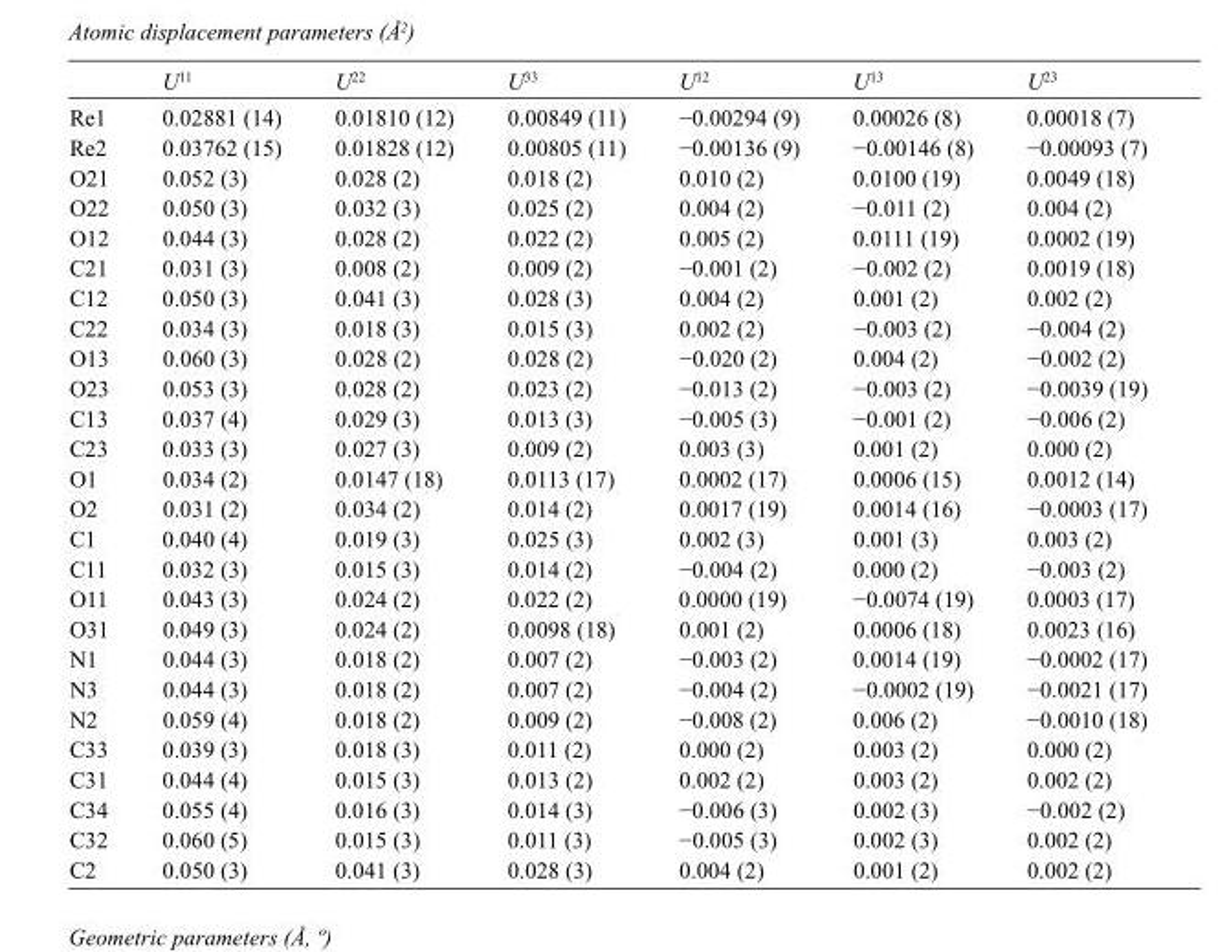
<table><thead><tr><td></td><td>U<sup>11</sup></td><td>U<sup>22</sup></td><td>U<sup>33</sup></td><td>U<sup>12</sup></td><td>U<sup>13</sup></td><td>U<sup>23</sup></td></tr></thead><tbody><tr><td>Re1</td><td>0.02881 (14)</td><td>0.01810 (12)</td><td>0.00849 (11)</td><td>−0.00294 (9)</td><td>0.00026 (8)</td><td>0.00018 (7)</td></tr><tr><td>Re2</td><td>0.03762 (15)</td><td>0.01828 (12)</td><td>0.00805 (11)</td><td>−0.00136 (9)</td><td>−0.00146 (8)</td><td>−0.00093 (7)</td></tr><tr><td>O21</td><td>0.052 (3)</td><td>0.028 (2)</td><td>0.018 (2)</td><td>0.010 (2)</td><td>0.0100 (19)</td><td>0.0049 (18)</td></tr><tr><td>O22</td><td>0.050 (3)</td><td>0.032 (3)</td><td>0.025 (2)</td><td>0.004 (2)</td><td>−0.011 (2)</td><td>0.004 (2)</td></tr><tr><td>O12</td><td>0.044 (3)</td><td>0.028 (2)</td><td>0.022 (2)</td><td>0.005 (2)</td><td>0.0111 (19)</td><td>0.0002 (19)</td></tr><tr><td>C21</td><td>0.031 (3)</td><td>0.008 (2)</td><td>0.009 (2)</td><td>−0.001 (2)</td><td>−0.002 (2)</td><td>0.0019 (18)</td></tr><tr><td>C12</td><td>0.050 (3)</td><td>0.041 (3)</td><td>0.028 (3)</td><td>0.004 (2)</td><td>0.001 (2)</td><td>0.002 (2)</td></tr><tr><td>C22</td><td>0.034 (3)</td><td>0.018 (3)</td><td>0.015 (3)</td><td>0.002 (2)</td><td>−0.003 (2)</td><td>−0.004 (2)</td></tr><tr><td>O13</td><td>0.060 (3)</td><td>0.028 (2)</td><td>0.028 (2)</td><td>−0.020 (2)</td><td>0.004 (2)</td><td>−0.002 (2)</td></tr><tr><td>O23</td><td>0.053 (3)</td><td>0.028 (2)</td><td>0.023 (2)</td><td>−0.013 (2)</td><td>−0.003 (2)</td><td>−0.0039 (19)</td></tr><tr><td>C13</td><td>0.037 (4)</td><td>0.029 (3)</td><td>0.013 (3)</td><td>−0.005 (3)</td><td>−0.001 (2)</td><td>−0.006 (2)</td></tr><tr><td>C23</td><td>0.033 (3)</td><td>0.027 (3)</td><td>0.009 (2)</td><td>0.003 (3)</td><td>0.001 (2)</td><td>0.000 (2)</td></tr><tr><td>O1</td><td>0.034 (2)</td><td>0.0147 (18)</td><td>0.0113 (17)</td><td>0.0002 (17)</td><td>0.0006 (15)</td><td>0.0012 (14)</td></tr><tr><td>O2</td><td>0.031 (2)</td><td>0.034 (2)</td><td>0.014 (2)</td><td>0.0017 (19)</td><td>0.0014 (16)</td><td>−0.0003 (17)</td></tr><tr><td>C1</td><td>0.040 (4)</td><td>0.019 (3)</td><td>0.025 (3)</td><td>0.002 (3)</td><td>0.001 (3)</td><td>0.003 (2)</td></tr><tr><td>C11</td><td>0.032 (3)</td><td>0.015 (3)</td><td>0.014 (2)</td><td>−0.004 (2)</td><td>0.000 (2)</td><td>−0.003 (2)</td></tr><tr><td>O11</td><td>0.043 (3)</td><td>0.024 (2)</td><td>0.022 (2)</td><td>0.0000 (19)</td><td>−0.0074 (19)</td><td>0.0003 (17)</td></tr><tr><td>O31</td><td>0.049 (3)</td><td>0.024 (2)</td><td>0.0098 (18)</td><td>0.001 (2)</td><td>0.0006 (18)</td><td>0.0023 (16)</td></tr><tr><td>N1</td><td>0.044 (3)</td><td>0.018 (2)</td><td>0.007 (2)</td><td>−0.003 (2)</td><td>0.0014 (19)</td><td>−0.0002 (17)</td></tr><tr><td>N3</td><td>0.044 (3)</td><td>0.018 (2)</td><td>0.007 (2)</td><td>−0.004 (2)</td><td>−0.0002 (19)</td><td>−0.0021 (17)</td></tr><tr><td>N2</td><td>0.059 (4)</td><td>0.018 (2)</td><td>0.009 (2)</td><td>−0.008 (2)</td><td>0.006 (2)</td><td>−0.0010 (18)</td></tr><tr><td>C33</td><td>0.039 (3)</td><td>0.018 (3)</td><td>0.011 (2)</td><td>0.000 (2)</td><td>0.003 (2)</td><td>0.000 (2)</td></tr><tr><td>C31</td><td>0.044 (4)</td><td>0.015 (3)</td><td>0.013 (2)</td><td>0.002 (2)</td><td>0.003 (2)</td><td>0.002 (2)</td></tr><tr><td>C34</td><td>0.055 (4)</td><td>0.016 (3)</td><td>0.014 (3)</td><td>−0.006 (3)</td><td>0.002 (3)</td><td>−0.002 (2)</td></tr><tr><td>C32</td><td>0.060 (5)</td><td>0.015 (3)</td><td>0.011 (3)</td><td>−0.005 (3)</td><td>0.002 (3)</td><td>0.002 (2)</td></tr><tr><td>C2</td><td>0.050 (3)</td><td>0.041 (3)</td><td>0.028 (3)</td><td>0.004 (2)</td><td>0.001 (2)</td><td>0.002 (2)</td></tr></tbody></table>